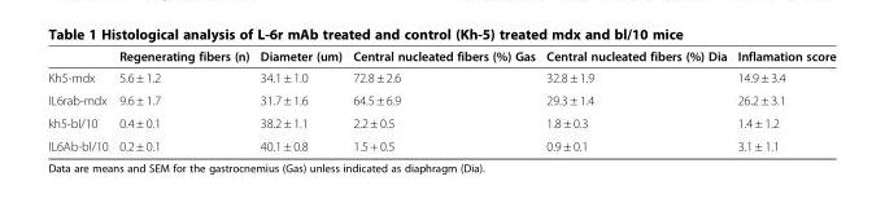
<table><thead><tr><td></td><td>Regenerating fibers (n)</td><td>Diameter (um)</td><td>Central nucleated fibers (%) Gas</td><td>Central nucleated fibers (%) Dia</td><td>Inflamation score</td></tr></thead><tbody><tr><td>Kh5-mdx</td><td>5.6 ± 1.2</td><td>34.1 ± 1.0</td><td>72.8 ± 2.6</td><td>32.8 ± 1.9</td><td>14.9 ± 3.4</td></tr><tr><td>IL6rab-mdx</td><td>9.6 ± 1.7</td><td>31.7 ± 1.6</td><td>64.5 ± 6.9</td><td>29.3 ± 1.4</td><td>26.2 ± 3.1</td></tr><tr><td>kh5-bI/10</td><td>0.4 ± 0.1</td><td>38.2 ± 1.1</td><td>2.2 ± 0.5</td><td>1.8 ± 0.3</td><td>1.4 ± 1.2</td></tr><tr><td>IL6Ab-bl/10</td><td>0.2 ± 0.1</td><td>40.1 ± 0.8</td><td>1.5 + 0.5</td><td>0.9 ± 0.1</td><td>3.1 ± 1.1</td></tr></tbody></table>